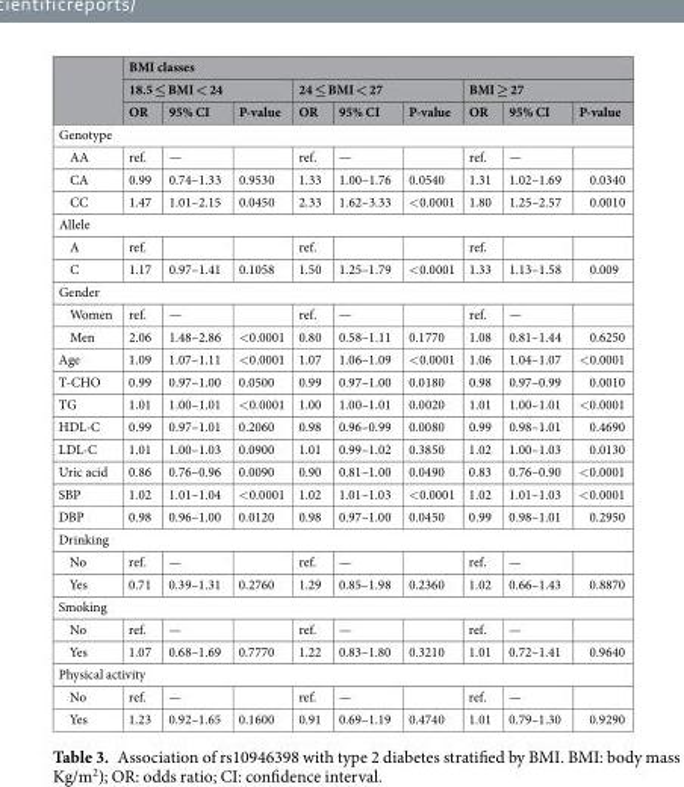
<table><thead><tr><td rowspan="3"></td><td colspan="9">BMI classes</td></tr><tr><td colspan="3">18.5 ≤ BMI &lt; 24</td><td colspan="3">24 ≤ BMI &lt; 27</td><td colspan="3">BMI ≥ 27</td></tr><tr><td>OR</td><td>95% CI</td><td>P-value</td><td>OR</td><td>95% CI</td><td>P-value</td><td>OR</td><td>95% CI</td><td>P-value</td></tr></thead><tbody><tr><td colspan="10">Genotype</td></tr><tr><td>AA</td><td>ref.</td><td>—</td><td></td><td>ref.</td><td>—</td><td></td><td>ref.</td><td>—</td><td></td></tr><tr><td>CA</td><td>0.99</td><td>0.74–1.33</td><td>0.9530</td><td>1.33</td><td>1.00–1.76</td><td>0.0540</td><td>1.31</td><td>1.02–1.69</td><td>0.0340</td></tr><tr><td>CC</td><td>1.47</td><td>1.01–2.15</td><td>0.0450</td><td>2.33</td><td>1.62–3.33</td><td>&lt;0.0001</td><td>1.80</td><td>1.25–2.57</td><td>0.0010</td></tr><tr><td colspan="10">Allele</td></tr><tr><td>A</td><td>ref.</td><td></td><td></td><td>ref.</td><td></td><td></td><td>ref.</td><td></td><td></td></tr><tr><td>C</td><td>1.17</td><td>0.97–1.41</td><td>0.1058</td><td>1.50</td><td>1.25–1.79</td><td>&lt;0.0001</td><td>1.33</td><td>1.13–1.58</td><td>0.009</td></tr><tr><td colspan="10">Gender</td></tr><tr><td>Women</td><td>ref.</td><td>—</td><td></td><td>ref.</td><td>—</td><td></td><td>ref.</td><td>—</td><td></td></tr><tr><td>Men</td><td>2.06</td><td>1.48–2.86</td><td>&lt;0.0001</td><td>0.80</td><td>0.58–1.11</td><td>0.1770</td><td>1.08</td><td>0.81–1.44</td><td>0.6250</td></tr><tr><td>Age</td><td>1.09</td><td>1.07–1.11</td><td>&lt;0.0001</td><td>1.07</td><td>1.06–1.09</td><td>&lt;0.0001</td><td>1.06</td><td>1.04–1.07</td><td>&lt;0.0001</td></tr><tr><td>T-CHO</td><td>0.99</td><td>0.97–1.00</td><td>0.0500</td><td>0.99</td><td>0.97–1.00</td><td>0.0180</td><td>0.98</td><td>0.97–0.99</td><td>0.0010</td></tr><tr><td>TG</td><td>1.01</td><td>1.00–1.01</td><td>&lt;0.0001</td><td>1.00</td><td>1.00–1.01</td><td>0.0020</td><td>1.01</td><td>1.00–1.01</td><td>&lt;0.0001</td></tr><tr><td>HDL-C</td><td>0.99</td><td>0.97–1.01</td><td>0.2060</td><td>0.98</td><td>0.96–0.99</td><td>0.0080</td><td>0.99</td><td>0.98–1.01</td><td>0.4690</td></tr><tr><td>LDL-C</td><td>1.01</td><td>1.00–1.03</td><td>0.0900</td><td>1.01</td><td>0.99–1.02</td><td>0.3850</td><td>1.02</td><td>1.00–1.03</td><td>0.0130</td></tr><tr><td>Uric acid</td><td>0.86</td><td>0.76–0.96</td><td>0.0090</td><td>0.90</td><td>0.81–1.00</td><td>0.0490</td><td>0.83</td><td>0.76–0.90</td><td>&lt;0.0001</td></tr><tr><td>SBP</td><td>1.02</td><td>1.01–1.04</td><td>&lt;0.0001</td><td>1.02</td><td>1.01–1.03</td><td>&lt;0.0001</td><td>1.02</td><td>1.01–1.03</td><td>&lt;0.0001</td></tr><tr><td>DBP</td><td>0.98</td><td>0.96–1.00</td><td>0.0120</td><td>0.98</td><td>0.97–1.00</td><td>0.0450</td><td>0.99</td><td>0.98–1.01</td><td>0.2950</td></tr><tr><td colspan="10">Drinking</td></tr><tr><td>No</td><td>ref.</td><td>—</td><td></td><td>ref.</td><td>—</td><td></td><td>ref.</td><td>—</td><td></td></tr><tr><td>Yes</td><td>0.71</td><td>0.39–1.31</td><td>0.2760</td><td>1.29</td><td>0.85–1.98</td><td>0.2360</td><td>1.02</td><td>0.66–1.43</td><td>0.8870</td></tr><tr><td colspan="10">Smoking</td></tr><tr><td>No</td><td>ref.</td><td>—</td><td></td><td>ref.</td><td>—</td><td></td><td>ref.</td><td>—</td><td></td></tr><tr><td>Yes</td><td>1.07</td><td>0.68–1.69</td><td>0.7770</td><td>1.22</td><td>0.83–1.80</td><td>0.3210</td><td>1.01</td><td>0.72–1.41</td><td>0.9640</td></tr><tr><td colspan="10">Physical activity</td></tr><tr><td>No</td><td>ref.</td><td>—</td><td></td><td>ref.</td><td>—</td><td></td><td>ref.</td><td>—</td><td></td></tr><tr><td>Yes</td><td>1.23</td><td>0.92–1.65</td><td>0.1600</td><td>0.91</td><td>0.69–1.19</td><td>0.4740</td><td>1.01</td><td>0.79–1.30</td><td>0.9290</td></tr></tbody></table>